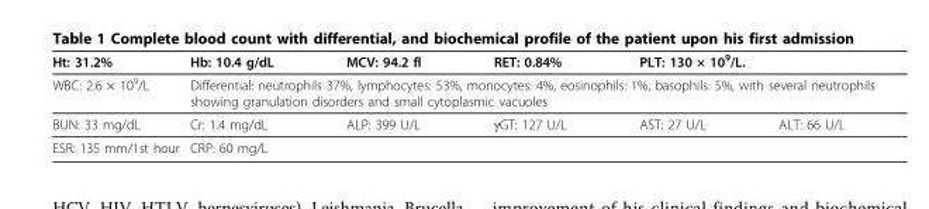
<table><thead><tr><td rowspan="3">Ht: 31.2% WBC: 2.6 × 10<sup>9</sup>/L BUN: 33 mg/dL</td><td>Hb: 10.4 g/dL</td><td>MCV: 94.2 fl</td><td>RET: 0.84%</td><td colspan="2">PLT: 130 × 10<sup>9</sup>/L.</td></tr><tr><td colspan="5">Differential: neutrophils 37%, lymphocytes: 53%, monocytes: 4%, eosinophils: 1%, basophils: 5%, with several neutrophils showing granulation disorders and small cytoplasmic vacuoles</td></tr><tr><td>Cr: 1.4 mg/dL</td><td>ALP: 399 U/L</td><td>γGT: 127 U/L</td><td>AST: 27 U/L</td><td>ALT: 66 U/L</td></tr></thead><tbody><tr><td>ESR: 135 mm/1st hour</td><td>CRP: 60 mg/L</td><td></td><td></td><td></td><td></td></tr></tbody></table>